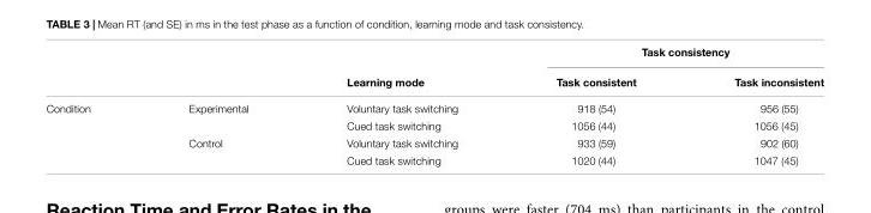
<table><thead><tr><td rowspan="2"></td><td rowspan="2"></td><td rowspan="2">Learning mode</td><td colspan="2">Task consistency</td></tr><tr><td>Task consistent</td><td>Task inconsistent</td></tr></thead><tbody><tr><td rowspan="4">Condition</td><td>Experimental</td><td>Voluntary task switching</td><td>918 (54)</td><td>956 (55)</td></tr><tr><td></td><td>Cued task switching</td><td>1056 (44)</td><td>1056 (45)</td></tr><tr><td>Control</td><td>Voluntary task switching</td><td>933 (59)</td><td>902 (60)</td></tr><tr><td></td><td>Cued task switching</td><td>1020 (44)</td><td>1047 (45)</td></tr></tbody></table>